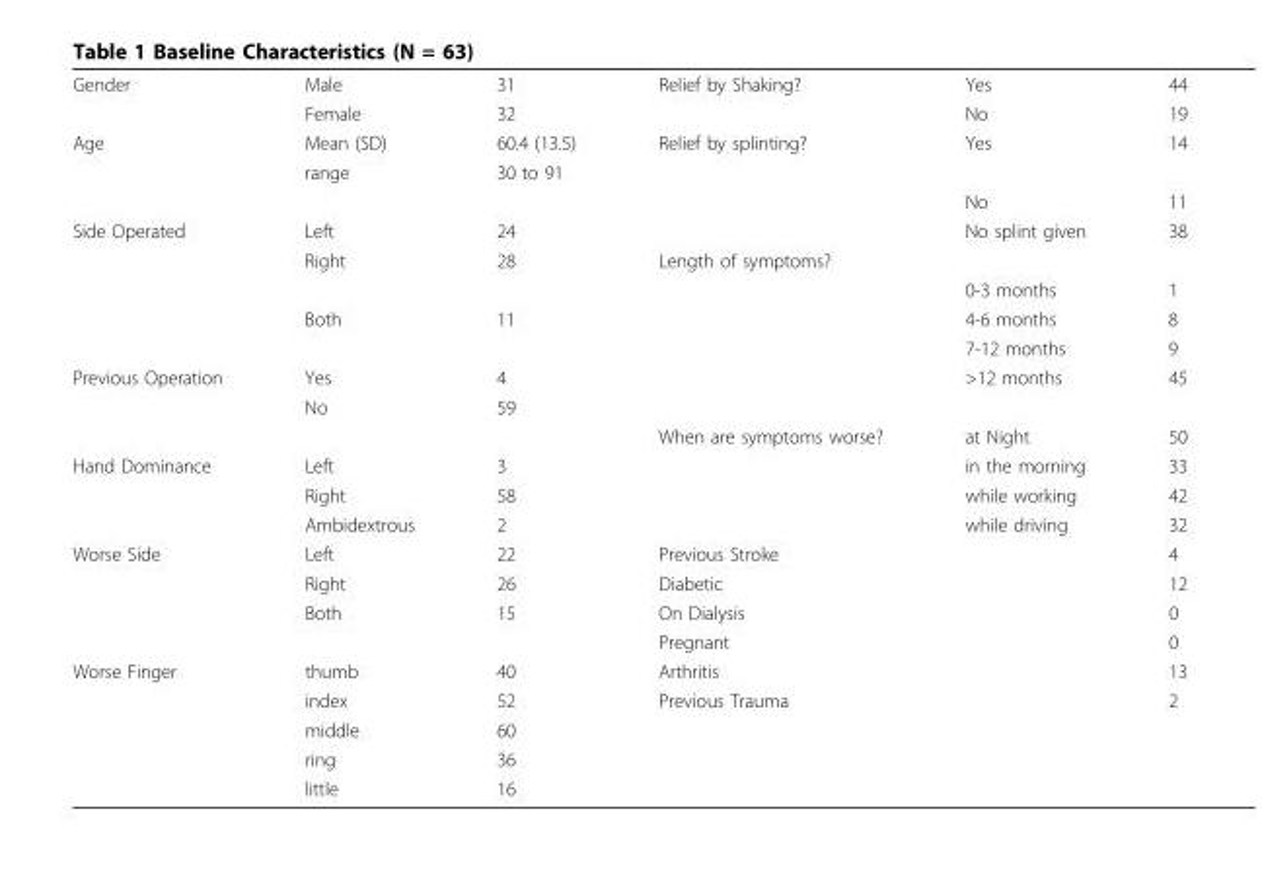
<table><tbody><tr><td rowspan="2">Gender</td><td>Male</td><td>31</td><td>Relief by Shaking?</td><td>Yes</td><td>44</td></tr><tr><td>Female</td><td>32</td><td></td><td>No</td><td>19</td></tr><tr><td rowspan="3">Age</td><td>Mean (SD)</td><td>60.4 (13.5)</td><td>Relief by splinting?</td><td>Yes</td><td>14</td></tr><tr><td>range</td><td>30 to 91</td><td></td><td></td><td></td></tr><tr><td></td><td></td><td></td><td>No</td><td>11</td></tr><tr><td rowspan="5">Side Operated</td><td>Left</td><td>24</td><td></td><td>No splint given</td><td>38</td></tr><tr><td>Right</td><td>28</td><td>Length of symptoms?</td><td></td><td></td></tr><tr><td></td><td></td><td></td><td>0-3 months</td><td>1</td></tr><tr><td>Both</td><td>11</td><td></td><td>4-6 months</td><td>8</td></tr><tr><td></td><td></td><td></td><td>7-12 months</td><td>9</td></tr><tr><td rowspan="3">Previous Operation</td><td>Yes</td><td>4</td><td></td><td>&gt;12 months</td><td>45</td></tr><tr><td>No</td><td>59</td><td></td><td></td><td></td></tr><tr><td></td><td></td><td>When are symptoms worse?</td><td>at Night</td><td>50</td></tr><tr><td rowspan="3">Hand Dominance</td><td>Left</td><td>3</td><td></td><td>in the morning</td><td>33</td></tr><tr><td>Right</td><td>58</td><td></td><td>while working</td><td>42</td></tr><tr><td>Ambidextrous</td><td>2</td><td></td><td>while driving</td><td>32</td></tr><tr><td rowspan="4">Worse Side</td><td>Left</td><td>22</td><td>Previous Stroke</td><td></td><td>4</td></tr><tr><td>Right</td><td>26</td><td>Diabetic</td><td></td><td>12</td></tr><tr><td>Both</td><td>15</td><td>On Dialysis</td><td></td><td>0</td></tr><tr><td></td><td></td><td>Pregnant</td><td></td><td>0</td></tr><tr><td rowspan="5">Worse Finger</td><td>thumb</td><td>40</td><td>Arthritis</td><td></td><td>13</td></tr><tr><td>index</td><td>52</td><td>Previous Trauma</td><td></td><td>2</td></tr><tr><td>middle</td><td>60</td><td></td><td></td><td></td></tr><tr><td>ring</td><td>36</td><td></td><td></td><td></td></tr><tr><td>little</td><td>16</td><td></td><td></td><td></td></tr></tbody></table>